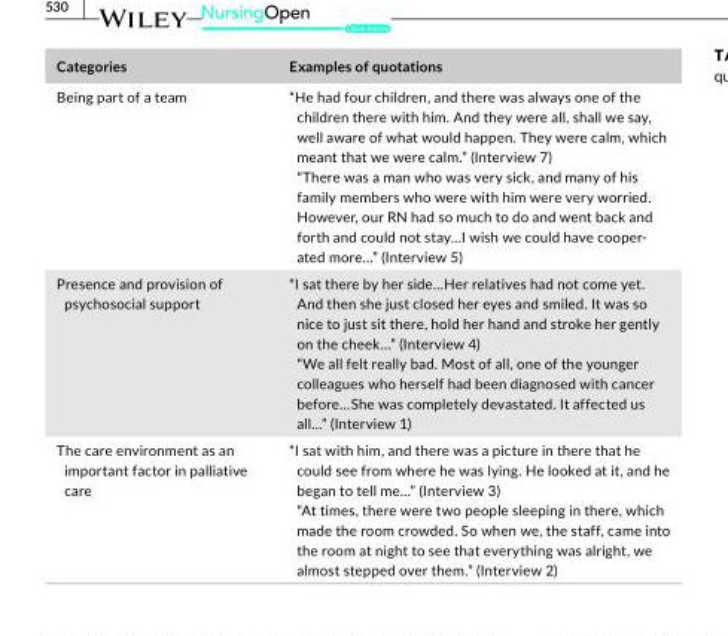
<table><thead><tr><td>Categories</td><td>Examples of quotations</td></tr></thead><tbody><tr><td>Being part of a team</td><td>“He had four children, and there was always one of the children there with him. And they were all, shall we say, well aware of what would happen. They were calm, which meant that we were calm.” (Interview 7) “There was a man who was very sick, and many of his family members who were with him were very worried. However, our RN had so much to do and went back and forth and could not stay…I wish we could have cooper- ated more…” (Interview 5)</td></tr><tr><td>Presence and provision of psychosocial support</td><td>“I sat there by her side…Her relatives had not come yet. And then she just closed her eyes and smiled. It was so nice to just sit there, hold her hand and stroke her gently on the cheek…” (Interview 4) “We all felt really bad. Most of all, one of the younger colleagues who herself had been diagnosed with cancer before…She was completely devastated. It affected us all…” (Interview 1)</td></tr><tr><td>The care environment as an important factor in palliative care</td><td>“I sat with him, and there was a picture in there that he could see from where he was lying. He looked at it, and he began to tell me…” (Interview 3) “At times, there were two people sleeping in there, which made the room crowded. So when we, the staff, came into the room at night to see that everything was alright, we almost stepped over them.” (Interview 2)</td></tr></tbody></table>